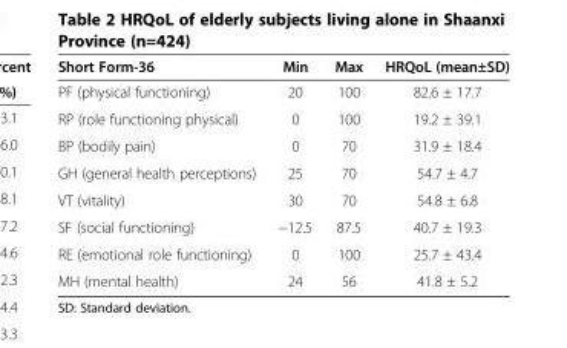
<table><thead><tr><td>Short Form-36</td><td>Min</td><td>Max</td><td>HRQoL (mean±SD)</td></tr></thead><tbody><tr><td>PF (physical functioning)</td><td>20</td><td>100</td><td>82.6 ± 17.7</td></tr><tr><td>RP (role functioning physical)</td><td>0</td><td>100</td><td>19.2 ± 39.1</td></tr><tr><td>BP (bodily pain)</td><td>0</td><td>70</td><td>31.9 ± 18.4</td></tr><tr><td>GH (general health perceptions)</td><td>25</td><td>70</td><td>54.7 ± 4.7</td></tr><tr><td>VT (vitality)</td><td>30</td><td>70</td><td>54.8 ± 6.8</td></tr><tr><td>SF (social functioning)</td><td>−12.5</td><td>87.5</td><td>40.7 ± 19.3</td></tr><tr><td>RE (emotional role functioning)</td><td>0</td><td>100</td><td>25.7 ± 43.4</td></tr><tr><td>MH (mental health)</td><td>24</td><td>56</td><td>41.8 ± 5.2</td></tr></tbody></table>